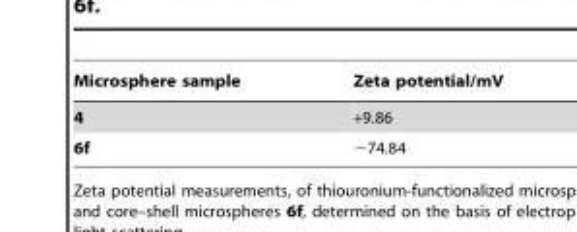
<table><thead><tr><td>Microsphere sample</td><td>Zeta potential/mV</td></tr></thead><tbody><tr><td>4</td><td>+9.86</td></tr><tr><td>6f</td><td>−74.84</td></tr></tbody></table>